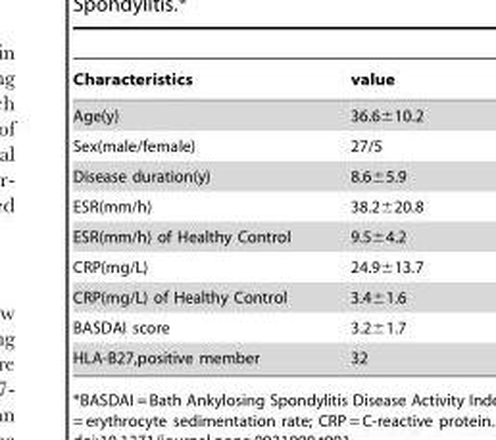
<table><thead><tr><td>Characteristics</td><td>value</td></tr></thead><tbody><tr><td>Age(y)</td><td>36.6±10.2</td></tr><tr><td>Sex(male/female)</td><td>27/5</td></tr><tr><td>Disease duration(y)</td><td>8.6±5.9</td></tr><tr><td>ESR(mm/h)</td><td>38.2±20.8</td></tr><tr><td>ESR(mm/h) of Healthy Control</td><td>9.5±4.2</td></tr><tr><td>CRP(mg/L)</td><td>24.9±13.7</td></tr><tr><td>CRP(mg/L) of Healthy Control</td><td>3.4±1.6</td></tr><tr><td>BASDAI score</td><td>3.2±1.7</td></tr><tr><td>HLA-B27,positive member</td><td>32</td></tr></tbody></table>